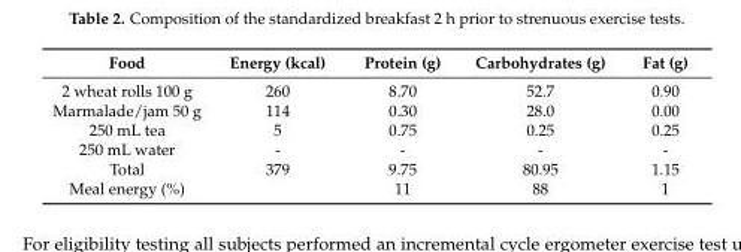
<table><thead><tr><td>Food</td><td>Energy (kcal)</td><td>Protein (g)</td><td>Carbohydrates (g)</td><td>Fat (g)</td></tr></thead><tbody><tr><td>2 wheat rolls 100 g</td><td>260</td><td>8.70</td><td>52.7</td><td>0.90</td></tr><tr><td>Marmalade/jam 50 g</td><td>114</td><td>0.30</td><td>28.0</td><td>0.00</td></tr><tr><td>250 mL tea</td><td>5</td><td>0.75</td><td>0.25</td><td>0.25</td></tr><tr><td>250 mL water</td><td>-</td><td>-</td><td>-</td><td>-</td></tr><tr><td>Total</td><td>379</td><td>9.75</td><td>80.95</td><td>1.15</td></tr><tr><td>Meal energy (%)</td><td></td><td>11</td><td>88</td><td>1</td></tr></tbody></table>